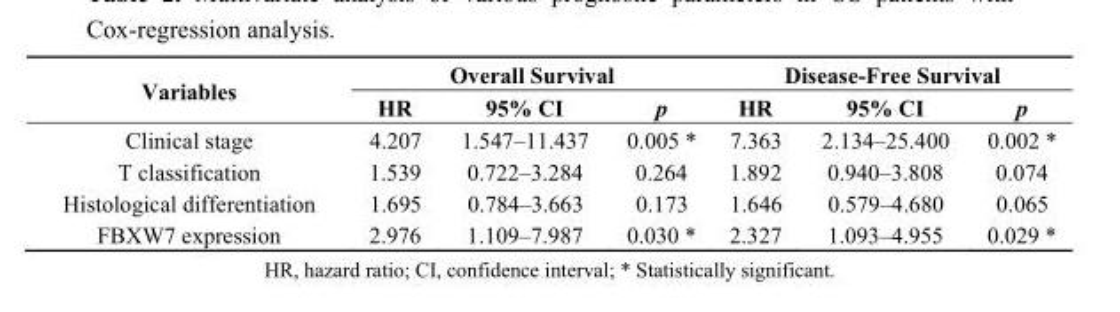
<table><thead><tr><td rowspan="2">Variables</td><td colspan="3">Overall Survival</td><td colspan="3">Disease-Free Survival</td></tr><tr><td>HR</td><td>95% CI</td><td>p</td><td>HR</td><td>95% CI</td><td>p</td></tr></thead><tbody><tr><td>Clinical stage</td><td>4.207</td><td>1.547–11.437</td><td>0.005 *</td><td>7.363</td><td>2.134–25.400</td><td>0.002 *</td></tr><tr><td>T classification</td><td>1.539</td><td>0.722–3.284</td><td>0.264</td><td>1.892</td><td>0.940–3.808</td><td>0.074</td></tr><tr><td>Histological differentiation</td><td>1.695</td><td>0.784–3.663</td><td>0.173</td><td>1.646</td><td>0.579–4.680</td><td>0.065</td></tr><tr><td>FBXW7 expression</td><td>2.976</td><td>1.109–7.987</td><td>0.030 *</td><td>2.327</td><td>1.093–4.955</td><td>0.029 *</td></tr></tbody></table>